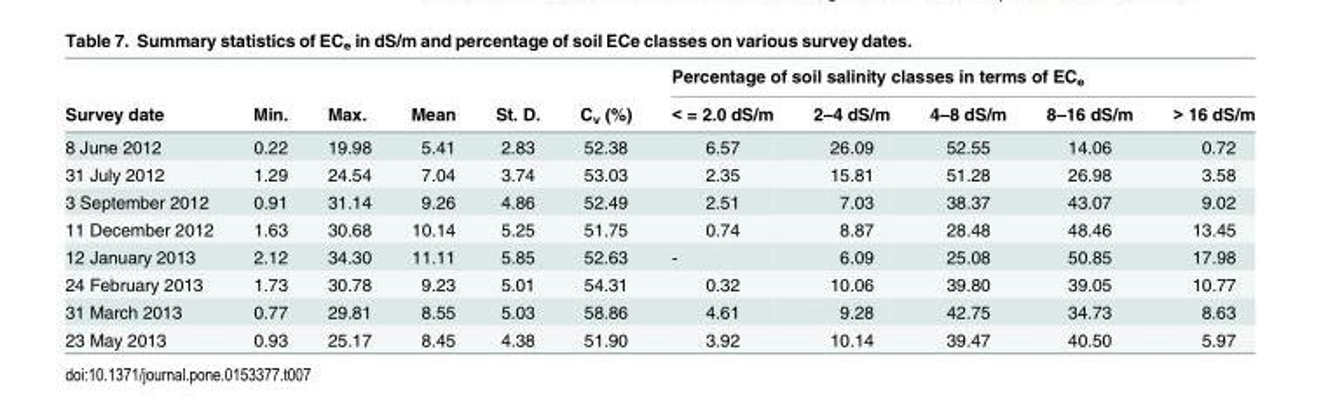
<table><thead><tr><td rowspan="2">Survey date</td><td rowspan="2">Min.</td><td rowspan="2">Max.</td><td rowspan="2">Mean</td><td rowspan="2">St. D.</td><td rowspan="2">C<sub>v</sub> (%)</td><td colspan="5">Percentage of soil salinity classes in terms of EC<sub>e</sub></td></tr><tr><td>&lt; = 2.0 dS/m</td><td>2–4 dS/m</td><td>4–8 dS/m</td><td>8–16 dS/m</td><td>&gt; 16 dS/m</td></tr></thead><tbody><tr><td>8 June 2012</td><td>0.22</td><td>19.98</td><td>5.41</td><td>2.83</td><td>52.38</td><td>6.57</td><td>26.09</td><td>52.55</td><td>14.06</td><td>0.72</td></tr><tr><td>31 July 2012</td><td>1.29</td><td>24.54</td><td>7.04</td><td>3.74</td><td>53.03</td><td>2.35</td><td>15.81</td><td>51.28</td><td>26.98</td><td>3.58</td></tr><tr><td>3 September 2012</td><td>0.91</td><td>31.14</td><td>9.26</td><td>4.86</td><td>52.49</td><td>2.51</td><td>7.03</td><td>38.37</td><td>43.07</td><td>9.02</td></tr><tr><td>11 December 2012</td><td>1.63</td><td>30.68</td><td>10.14</td><td>5.25</td><td>51.75</td><td>0.74</td><td>8.87</td><td>28.48</td><td>48.46</td><td>13.45</td></tr><tr><td>12 January 2013</td><td>2.12</td><td>34.30</td><td>11.11</td><td>5.85</td><td>52.63</td><td>-</td><td>6.09</td><td>25.08</td><td>50.85</td><td>17.98</td></tr><tr><td>24 February 2013</td><td>1.73</td><td>30.78</td><td>9.23</td><td>5.01</td><td>54.31</td><td>0.32</td><td>10.06</td><td>39.80</td><td>39.05</td><td>10.77</td></tr><tr><td>31 March 2013</td><td>0.77</td><td>29.81</td><td>8.55</td><td>5.03</td><td>58.86</td><td>4.61</td><td>9.28</td><td>42.75</td><td>34.73</td><td>8.63</td></tr><tr><td>23 May 2013</td><td>0.93</td><td>25.17</td><td>8.45</td><td>4.38</td><td>51.90</td><td>3.92</td><td>10.14</td><td>39.47</td><td>40.50</td><td>5.97</td></tr></tbody></table>